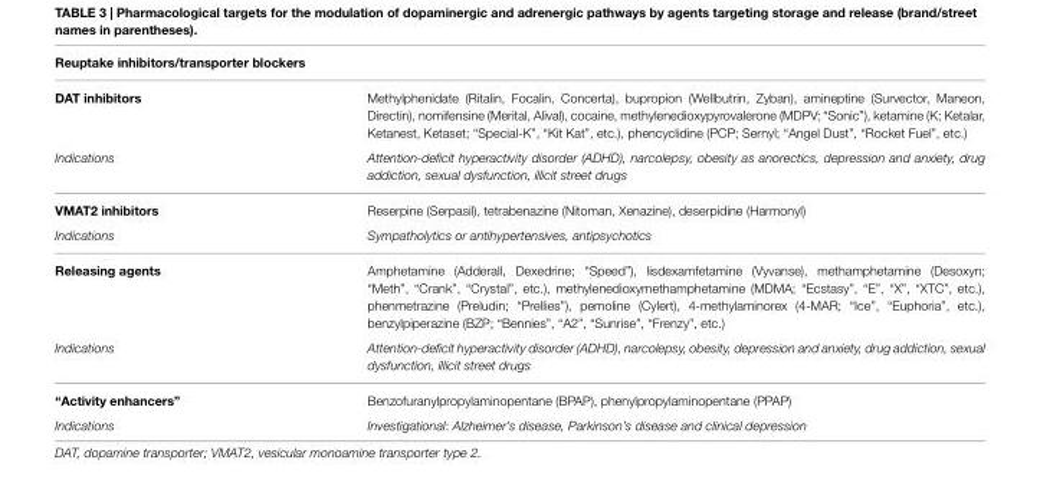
<table><tbody><tr><td colspan="2">Reuptake inhibitors/transporter blockers</td></tr><tr><td>DAT inhibitors</td><td>Methylphenidate (Ritalin, Focalin, Concerta), bupropion (Wellbutrin, Zyban), amineptine (Survector, Maneon, Directin), nomifensine (Merital, Alival), cocaine, methylenedioxypyrovalerone (MDPV; “Sonic”), ketamine (K; Ketalar, Ketanest, Ketaset; “Special-K”, “Kit Kat”, etc.), phencyclidine (PCP; Sernyl; “Angel Dust”, “Rocket Fuel”, etc.)</td></tr><tr><td>Indications</td><td>Attention-deficit hyperactivity disorder (ADHD), narcolepsy, obesity as anorectics, depression and anxiety, drug addiction, sexual dysfunction, illicit street drugs</td></tr><tr><td>VMAT2 inhibitors</td><td>Reserpine (Serpasil), tetrabenazine (Nitoman, Xenazine), deserpidine (Harmonyl)</td></tr><tr><td>Indications</td><td>Sympatholytics or antihypertensives, antipsychotics</td></tr><tr><td>Releasing agents</td><td>Amphetamine (Adderall, Dexedrine; “Speed”), lisdexamfetamine (Vyvanse), methamphetamine (Desoxyn; “Meth”, “Crank”, “Crystal”, etc.), methylenedioxymethamphetamine (MDMA; “Ecstasy”, “E”, “X”, “XTC”, etc.), phenmetrazine (Preludin; “Prellies”), pemoline (Cylert), 4-methylaminorex (4-MAR; “Ice”, “Euphoria”, etc.), benzylpiperazine (BZP; “Bennies”, “A2”, “Sunrise”, “Frenzy”, etc.)</td></tr><tr><td>Indications</td><td>Attention-deficit hyperactivity disorder (ADHD), narcolepsy, obesity, depression and anxiety, drug addiction, sexual dysfunction, illicit street drugs</td></tr><tr><td>“Activity enhancers”</td><td>Benzofuranylpropylaminopentane (BPAP), phenylpropylaminopentane (PPAP)</td></tr><tr><td>Indications</td><td>Investigational: Alzheimer’s disease, Parkinson’s disease and clinical depression</td></tr></tbody></table>